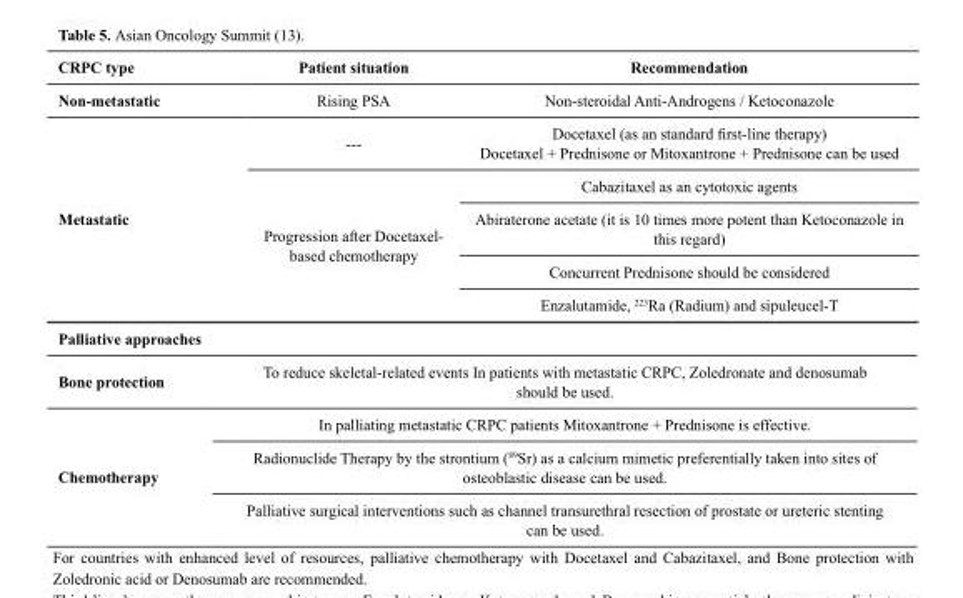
<table><thead><tr><td>CRPC type</td><td>Patient situation</td><td>Recommendation</td></tr></thead><tbody><tr><td>Non-metastatic</td><td>Rising PSA</td><td>Non-steroidal Anti-Androgens / Ketoconazole</td></tr><tr><td rowspan="5">Metastatic</td><td>---</td><td>Docetaxel (as an standard first-line therapy) Docetaxel + Prednisone or Mitoxantrone + Prednisone can be used</td></tr><tr><td rowspan="4">Progression after Docetaxel- based chemotherapy</td><td>Cabazitaxel as an cytotoxic agents</td></tr><tr><td>Abiraterone acetate (it is 10 times more potent than Ketoconazole in this regard)</td></tr><tr><td>Concurrent Prednisone should be considered</td></tr><tr><td>Enzalutamide, <sup>223</sup>Ra (Radium) and sipuleucel-T</td></tr><tr><td colspan="3">Palliative approaches</td></tr><tr><td>Bone protection</td><td colspan="2">To reduce skeletal-related events In patients with metastatic CRPC, Zoledronate and denosumab should be used.</td></tr><tr><td rowspan="3">Chemotherapy</td><td colspan="2">In palliating metastatic CRPC patients Mitoxantrone + Prednisone is effective.</td></tr><tr><td colspan="2">Radionuclide Therapy by the strontium (<sup>89</sup>Sr) as a calcium mimetic preferentially taken into sites of osteoblastic disease can be used.</td></tr><tr><td colspan="2">Palliative surgical interventions such as channel transurethral resection of prostate or ureteric stenting can be used.</td></tr></tbody></table>